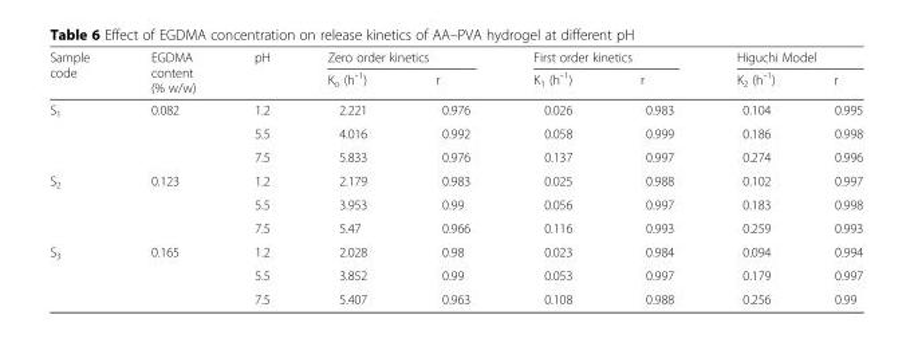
<table><thead><tr><td rowspan="2">Sample code</td><td rowspan="2">EGDMA content (% w/w)</td><td rowspan="2">pH</td><td colspan="2">Zero order kinetics</td><td colspan="2">First order kinetics</td><td colspan="2">Higuchi Model</td></tr><tr><td>K<sub>o</sub> (h¯<sup>1</sup>)</td><td>r</td><td>K<sub>1</sub> (h¯<sup>1</sup>)</td><td>r</td><td>K<sub>2</sub> (h¯<sup>1</sup>)</td><td>r</td></tr></thead><tbody><tr><td rowspan="3">S<sub>1</sub></td><td rowspan="3">0.082</td><td>1.2</td><td>2.221</td><td>0.976</td><td>0.026</td><td>0.983</td><td>0.104</td><td>0.995</td></tr><tr><td>5.5</td><td>4.016</td><td>0.992</td><td>0.058</td><td>0.999</td><td>0.186</td><td>0.998</td></tr><tr><td>7.5</td><td>5.833</td><td>0.976</td><td>0.137</td><td>0.997</td><td>0.274</td><td>0.996</td></tr><tr><td rowspan="3">S<sub>2</sub></td><td rowspan="3">0.123</td><td>1.2</td><td>2.179</td><td>0.983</td><td>0.025</td><td>0.988</td><td>0.102</td><td>0.997</td></tr><tr><td>5.5</td><td>3.953</td><td>0.99</td><td>0.056</td><td>0.997</td><td>0.183</td><td>0.998</td></tr><tr><td>7.5</td><td>5.47</td><td>0.966</td><td>0.116</td><td>0.993</td><td>0.259</td><td>0.993</td></tr><tr><td rowspan="3">S<sub>3</sub></td><td rowspan="3">0.165</td><td>1.2</td><td>2.028</td><td>0.98</td><td>0.023</td><td>0.984</td><td>0.094</td><td>0.994</td></tr><tr><td>5.5</td><td>3.852</td><td>0.99</td><td>0.053</td><td>0.997</td><td>0.179</td><td>0.997</td></tr><tr><td>7.5</td><td>5.407</td><td>0.963</td><td>0.108</td><td>0.988</td><td>0.256</td><td>0.99</td></tr></tbody></table>